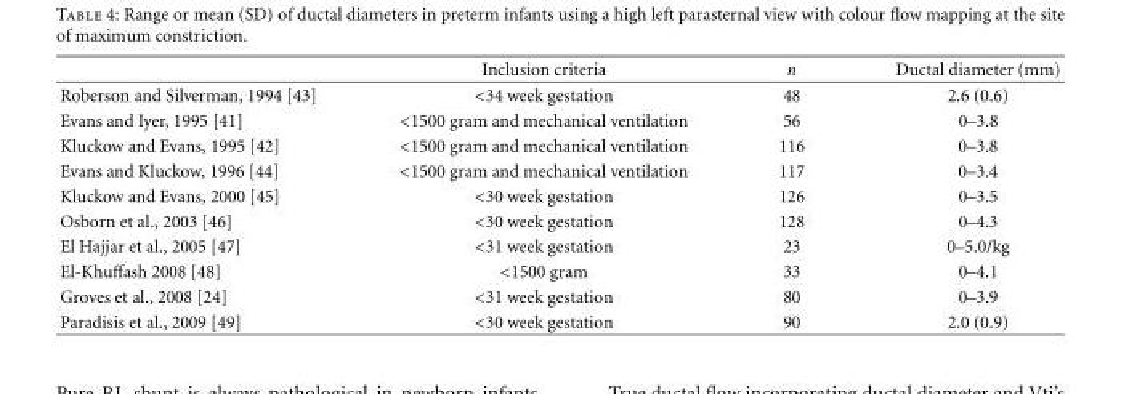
<table><thead><tr><td></td><td>Inclusion criteria</td><td>n</td><td>Ductal diameter (mm)</td></tr></thead><tbody><tr><td>Roberson and Silverman, 1994 [43]</td><td>&lt;34 week gestation</td><td>48</td><td>2.6 (0.6)</td></tr><tr><td>Evans and Iyer, 1995 [41]</td><td>&lt;1500 gram and mechanical ventilation</td><td>56</td><td>0–3.8</td></tr><tr><td>Kluckow and Evans, 1995 [42]</td><td>&lt;1500 gram and mechanical ventilation</td><td>116</td><td>0–3.8</td></tr><tr><td>Evans and Kluckow, 1996 [44]</td><td>&lt;1500 gram and mechanical ventilation</td><td>117</td><td>0–3.4</td></tr><tr><td>Kluckow and Evans, 2000 [45]</td><td>&lt;30 week gestation</td><td>126</td><td>0–3.5</td></tr><tr><td>Osborn et al., 2003 [46]</td><td>&lt;30 week gestation</td><td>128</td><td>0–4.3</td></tr><tr><td>El Hajjar et al., 2005 [47]</td><td>&lt;31 week gestation</td><td>23</td><td>0–5.0/kg</td></tr><tr><td>El-Khuffash 2008 [48]</td><td>&lt;1500 gram</td><td>33</td><td>0–4.1</td></tr><tr><td>Groves et al., 2008 [24]</td><td>&lt;31 week gestation</td><td>80</td><td>0–3.9</td></tr><tr><td>Paradisis et al., 2009 [49]</td><td>&lt;30 week gestation</td><td>90</td><td>2.0 (0.9)</td></tr></tbody></table>